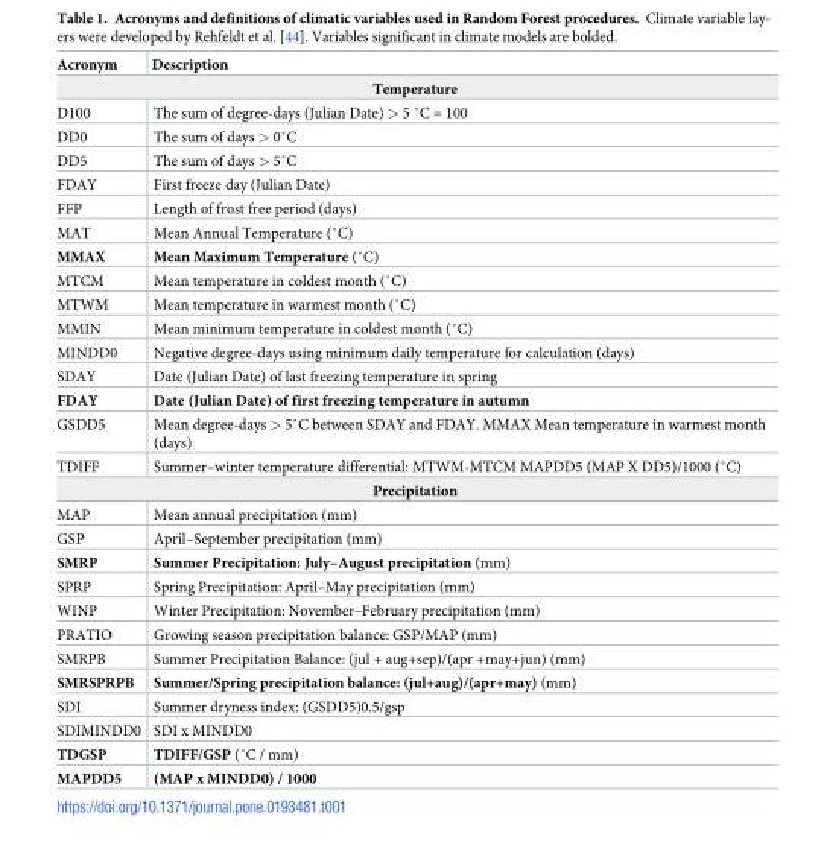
<table><thead><tr><td>Acronym</td><td>Description</td></tr></thead><tbody><tr><td colspan="2">Temperature</td></tr><tr><td>D100</td><td>The sum of degree-days (Julian Date) &gt; 5 ˚C = 100</td></tr><tr><td>DD0</td><td>The sum of days &gt; 0˚C</td></tr><tr><td>DD5</td><td>The sum of days &gt; 5˚C</td></tr><tr><td>FDAY</td><td>First freeze day (Julian Date)</td></tr><tr><td>FFP</td><td>Length of frost free period (days)</td></tr><tr><td>MAT</td><td>Mean Annual Temperature (˚C)</td></tr><tr><td>MMAX</td><td>Mean Maximum Temperature (˚C)</td></tr><tr><td>MTCM</td><td>Mean temperature in coldest month (˚C)</td></tr><tr><td>MTWM</td><td>Mean temperature in warmest month (˚C)</td></tr><tr><td>MMIN</td><td>Mean minimum temperature in coldest month (˚C)</td></tr><tr><td>MINDD0</td><td>Negative degree-days using minimum daily temperature for calculation (days)</td></tr><tr><td>SDAY</td><td>Date (Julian Date) of last freezing temperature in spring</td></tr><tr><td>FDAY</td><td>Date (Julian Date) of first freezing temperature in autumn</td></tr><tr><td>GSDD5</td><td>Mean degree-days &gt; 5˚C between SDAY and FDAY. MMAX Mean temperature in warmest month (days)</td></tr><tr><td>TDIFF</td><td>Summer–winter temperature differential: MTWM-MTCM MAPDD5 (MAP X DD5)/1000 (˚C)</td></tr><tr><td colspan="2">Precipitation</td></tr><tr><td>MAP</td><td>Mean annual precipitation (mm)</td></tr><tr><td>GSP</td><td>April–September precipitation (mm)</td></tr><tr><td>SMRP</td><td>Summer Precipitation: July–August precipitation (mm)</td></tr><tr><td>SPRP</td><td>Spring Precipitation: April–May precipitation (mm)</td></tr><tr><td>WINP</td><td>Winter Precipitation: November–February precipitation (mm)</td></tr><tr><td>PRATIO</td><td>Growing season precipitation balance: GSP/MAP (mm)</td></tr><tr><td>SMRPB</td><td>Summer Precipitation Balance: (jul + aug+sep)/(apr +may+jun) (mm)</td></tr><tr><td>SMRSPRPB</td><td>Summer/Spring precipitation balance: (jul+aug)/(apr+may) (mm)</td></tr><tr><td>SDI</td><td>Summer dryness index: (GSDD5)0.5/gsp</td></tr><tr><td>SDIMINDD0</td><td>SDI x MINDD0</td></tr><tr><td>TDGSP</td><td>TDIFF/GSP (˚C / mm)</td></tr><tr><td>MAPDD5</td><td>(MAP x MINDD0) / 1000</td></tr></tbody></table>